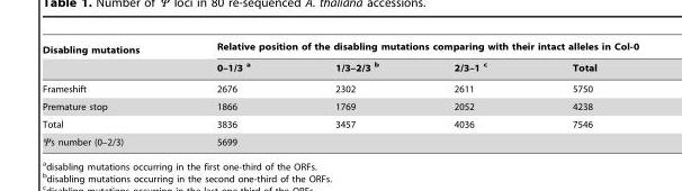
<table><thead><tr><td rowspan="2">Disabling mutations</td><td colspan="4">Relative position of the disabling mutations comparing with their intact alleles in Col-0</td></tr><tr><td>0–1/3 a</td><td>1/3–2/3 b</td><td>2/3–1 c</td><td>Total</td></tr></thead><tbody><tr><td>Frameshift</td><td>2676</td><td>2302</td><td>2611</td><td>5750</td></tr><tr><td>Premature stop</td><td>1866</td><td>1769</td><td>2052</td><td>4238</td></tr><tr><td>Total</td><td>3836</td><td>3457</td><td>4036</td><td>7546</td></tr><tr><td>Ψs number (0–2/3)</td><td colspan="4">5699</td></tr></tbody></table>